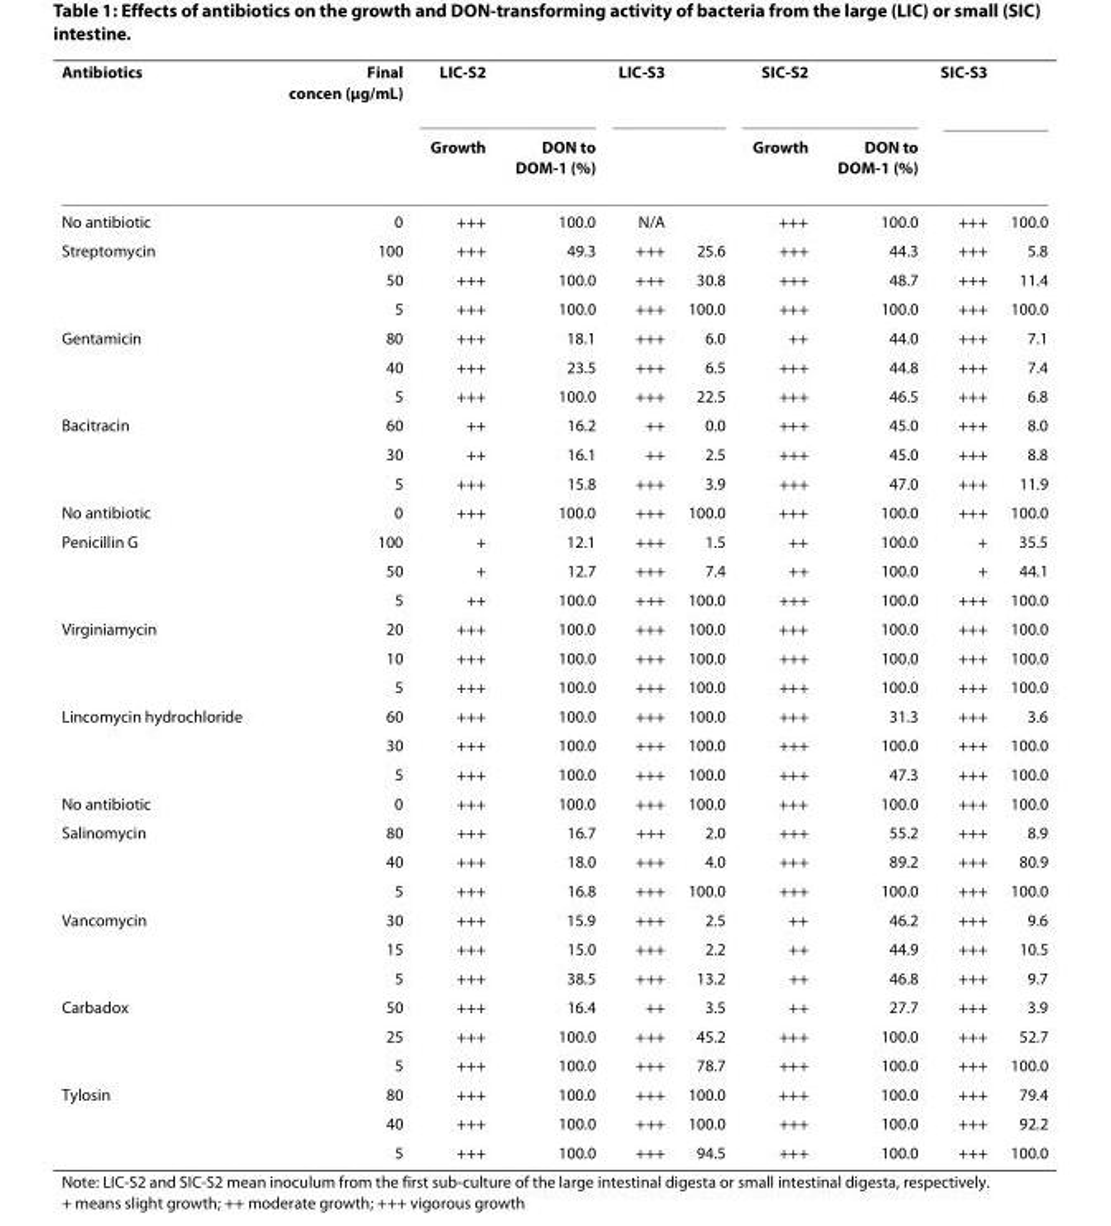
<table><thead><tr><td rowspan="2">Antibiotics</td><td rowspan="2">Final concen (μg/mL)</td><td rowspan="2">LIC-S2 Growth</td><td rowspan="2">DON to DOM-1 (%)</td><td rowspan="2">LIC-S3</td><td rowspan="2"></td><td rowspan="2">SIC-S2 Growth</td><td rowspan="2">DON to DOM-1 (%)</td><td rowspan="2">SIC-S3</td><td rowspan="2"></td></tr><tr></tr></thead><tbody><tr><td>No antibiotic</td><td>0</td><td>+++</td><td>100.0</td><td>N/A</td><td></td><td>+++</td><td>100.0</td><td>+++</td><td>100.0</td></tr><tr><td rowspan="3">Streptomycin</td><td>100</td><td>+++</td><td>49.3</td><td>+++</td><td>25.6</td><td>+++</td><td>44.3</td><td>+++</td><td>5.8</td></tr><tr><td>50</td><td>+++</td><td>100.0</td><td>+++</td><td>30.8</td><td>+++</td><td>48.7</td><td>+++</td><td>11.4</td></tr><tr><td>5</td><td>+++</td><td>100.0</td><td>+++</td><td>100.0</td><td>+++</td><td>100.0</td><td>+++</td><td>100.0</td></tr><tr><td rowspan="3">Gentamicin</td><td>80</td><td>+++</td><td>18.1</td><td>+++</td><td>6.0</td><td>++</td><td>44.0</td><td>+++</td><td>7.1</td></tr><tr><td>40</td><td>+++</td><td>23.5</td><td>+++</td><td>6.5</td><td>+++</td><td>44.8</td><td>+++</td><td>7.4</td></tr><tr><td>5</td><td>+++</td><td>100.0</td><td>+++</td><td>22.5</td><td>+++</td><td>46.5</td><td>+++</td><td>6.8</td></tr><tr><td rowspan="3">Bacitracin</td><td>60</td><td>++</td><td>16.2</td><td>++</td><td>0.0</td><td>+++</td><td>45.0</td><td>+++</td><td>8.0</td></tr><tr><td>30</td><td>++</td><td>16.1</td><td>++</td><td>2.5</td><td>+++</td><td>45.0</td><td>+++</td><td>8.8</td></tr><tr><td>5</td><td>+++</td><td>15.8</td><td>+++</td><td>3.9</td><td>+++</td><td>47.0</td><td>+++</td><td>11.9</td></tr><tr><td>No antibiotic</td><td>0</td><td>+++</td><td>100.0</td><td>+++</td><td>100.0</td><td>+++</td><td>100.0</td><td>+++</td><td>100.0</td></tr><tr><td rowspan="3">Penicillin G</td><td>100</td><td>+</td><td>12.1</td><td>+++</td><td>1.5</td><td>++</td><td>100.0</td><td>+</td><td>35.5</td></tr><tr><td>50</td><td>+</td><td>12.7</td><td>+++</td><td>7.4</td><td>++</td><td>100.0</td><td>+</td><td>44.1</td></tr><tr><td>5</td><td>++</td><td>100.0</td><td>+++</td><td>100.0</td><td>+++</td><td>100.0</td><td>+++</td><td>100.0</td></tr><tr><td rowspan="3">Virginiamycin</td><td>20</td><td>+++</td><td>100.0</td><td>+++</td><td>100.0</td><td>+++</td><td>100.0</td><td>+++</td><td>100.0</td></tr><tr><td>10</td><td>+++</td><td>100.0</td><td>+++</td><td>100.0</td><td>+++</td><td>100.0</td><td>+++</td><td>100.0</td></tr><tr><td>5</td><td>+++</td><td>100.0</td><td>+++</td><td>100.0</td><td>+++</td><td>100.0</td><td>+++</td><td>100.0</td></tr><tr><td rowspan="3">Lincomycin hydrochloride</td><td>60</td><td>+++</td><td>100.0</td><td>+++</td><td>100.0</td><td>+++</td><td>31.3</td><td>+++</td><td>3.6</td></tr><tr><td>30</td><td>+++</td><td>100.0</td><td>+++</td><td>100.0</td><td>+++</td><td>100.0</td><td>+++</td><td>100.0</td></tr><tr><td>5</td><td>+++</td><td>100.0</td><td>+++</td><td>100.0</td><td>+++</td><td>47.3</td><td>+++</td><td>100.0</td></tr><tr><td>No antibiotic</td><td>0</td><td>+++</td><td>100.0</td><td>+++</td><td>100.0</td><td>+++</td><td>100.0</td><td>+++</td><td>100.0</td></tr><tr><td rowspan="3">Salinomycin</td><td>80</td><td>+++</td><td>16.7</td><td>+++</td><td>2.0</td><td>+++</td><td>55.2</td><td>+++</td><td>8.9</td></tr><tr><td>40</td><td>+++</td><td>18.0</td><td>+++</td><td>4.0</td><td>+++</td><td>89.2</td><td>+++</td><td>80.9</td></tr><tr><td>5</td><td>+++</td><td>16.8</td><td>+++</td><td>100.0</td><td>+++</td><td>100.0</td><td>+++</td><td>100.0</td></tr><tr><td rowspan="3">Vancomycin</td><td>30</td><td>+++</td><td>15.9</td><td>+++</td><td>2.5</td><td>++</td><td>46.2</td><td>+++</td><td>9.6</td></tr><tr><td>15</td><td>+++</td><td>15.0</td><td>+++</td><td>2.2</td><td>++</td><td>44.9</td><td>+++</td><td>10.5</td></tr><tr><td>5</td><td>+++</td><td>38.5</td><td>+++</td><td>13.2</td><td>++</td><td>46.8</td><td>+++</td><td>9.7</td></tr><tr><td rowspan="3">Carbadox</td><td>50</td><td>+++</td><td>16.4</td><td>++</td><td>3.5</td><td>++</td><td>27.7</td><td>+++</td><td>3.9</td></tr><tr><td>25</td><td>+++</td><td>100.0</td><td>+++</td><td>45.2</td><td>+++</td><td>100.0</td><td>+++</td><td>52.7</td></tr><tr><td>5</td><td>+++</td><td>100.0</td><td>+++</td><td>78.7</td><td>+++</td><td>100.0</td><td>+++</td><td>100.0</td></tr><tr><td rowspan="3">Tylosin</td><td>80</td><td>+++</td><td>100.0</td><td>+++</td><td>100.0</td><td>+++</td><td>100.0</td><td>+++</td><td>79.4</td></tr><tr><td>40</td><td>+++</td><td>100.0</td><td>+++</td><td>100.0</td><td>+++</td><td>100.0</td><td>+++</td><td>92.2</td></tr><tr><td>5</td><td>+++</td><td>100.0</td><td>+++</td><td>94.5</td><td>+++</td><td>100.0</td><td>+++</td><td>100.0</td></tr></tbody></table>